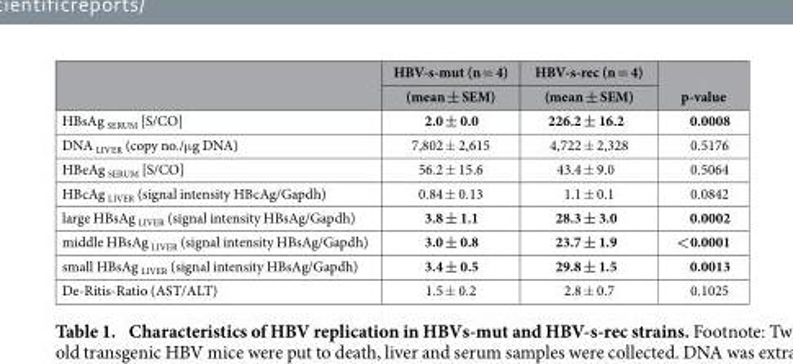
<table><thead><tr><td rowspan="2"></td><td rowspan="2">HBV-s-mut (n = 4) (mean ± SEM)</td><td rowspan="2">HBV-s-rec (n = 4) (mean ± SEM)</td><td rowspan="2">p-value</td></tr><tr></tr></thead><tbody><tr><td>HBsAg <sub>SERUM</sub> [S/CO]</td><td>2.0 ± 0.0</td><td>226.2 ± 16.2</td><td>0.0008</td></tr><tr><td>DNA <sub>LIVER</sub> (copy no./μ g DNA)</td><td>7,802 ± 2,615</td><td>4,722 ± 2,328</td><td>0.5176</td></tr><tr><td>HBeAg <sub>SERUM</sub> [S/CO]</td><td>56.2 ± 15.6</td><td>43.4 ± 9.0</td><td>0.5064</td></tr><tr><td>HBcAg <sub>LIVER</sub> (signal intensity HBcAg/Gapdh)</td><td>0.84 ± 0.13</td><td>1.1 ± 0.1</td><td>0.0842</td></tr><tr><td>large HBsAg <sub>LIVER</sub> (signal intensity HBsAg/Gapdh)</td><td>3.8 ± 1.1</td><td>28.3 ± 3.0</td><td>0.0002</td></tr><tr><td>middle HBsAg <sub>LIVER</sub> (signal intensity HBsAg/Gapdh)</td><td>3.0 ± 0.8</td><td>23.7 ± 1.9</td><td>&lt; 0.0001</td></tr><tr><td>small HBsAg <sub>LIVER</sub> (signal intensity HBsAg/Gapdh)</td><td>3.4 ± 0.5</td><td>29.8 ± 1.5</td><td>0.0013</td></tr><tr><td>De-Ritis-Ratio (AST/ALT)</td><td>1.5 ± 0.2</td><td>2.8 ± 0.7</td><td>0.1025</td></tr></tbody></table>